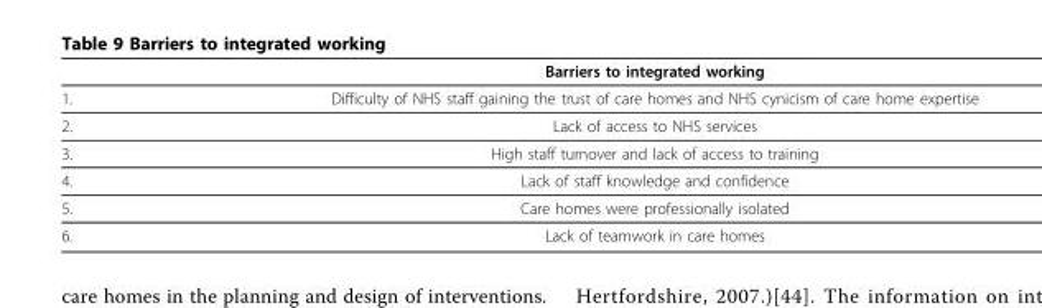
<table><thead><tr><td></td><td>Barriers to integrated working</td></tr></thead><tbody><tr><td>1.</td><td>Difficulty of NHS staff gaining the trust of care homes and NHS cynicism of care home expertise</td></tr><tr><td>2.</td><td>Lack of access to NHS services</td></tr><tr><td>3.</td><td>High staff turnover and lack of access to training</td></tr><tr><td>4.</td><td>Lack of staff knowledge and confidence</td></tr><tr><td>5.</td><td>Care homes were professionally isolated</td></tr><tr><td>6.</td><td>Lack of teamwork in care homes</td></tr></tbody></table>